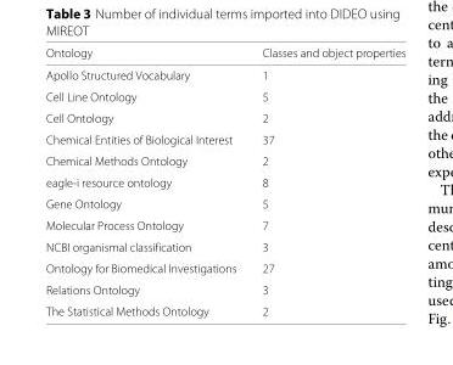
<table><thead><tr><td>Ontology</td><td>Classes and object properties</td></tr></thead><tbody><tr><td>Apollo Structured Vocabulary</td><td>1</td></tr><tr><td>Cell Line Ontology</td><td>5</td></tr><tr><td>Cell Ontology</td><td>2</td></tr><tr><td>Chemical Entities of Biological Interest</td><td>37</td></tr><tr><td>Chemical Methods Ontology</td><td>2</td></tr><tr><td>eagle-i resource ontology</td><td>8</td></tr><tr><td>Gene Ontology</td><td>5</td></tr><tr><td>Molecular Process Ontology</td><td>7</td></tr><tr><td>NCBI organismal classification</td><td>3</td></tr><tr><td>Ontology for Biomedical Investigations</td><td>27</td></tr><tr><td>Relations Ontology</td><td>3</td></tr><tr><td>The Statistical Methods Ontology</td><td>2</td></tr></tbody></table>